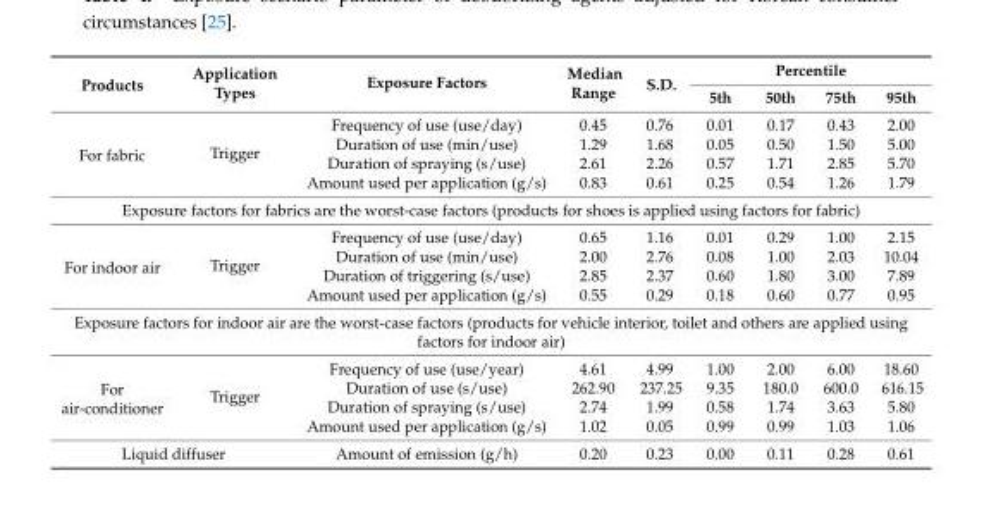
<table><thead><tr><td rowspan="2">Products</td><td rowspan="2">Application Types</td><td rowspan="2">Exposure Factors</td><td rowspan="2">Median Range</td><td rowspan="2">S.D.</td><td colspan="4">Percentile</td></tr><tr><td>5th</td><td>50th</td><td>75th</td><td>95th</td></tr></thead><tbody><tr><td rowspan="4">For fabric</td><td rowspan="4">Trigger</td><td>Frequency of use (use/day)</td><td>0.45</td><td>0.76</td><td>0.01</td><td>0.17</td><td>0.43</td><td>2.00</td></tr><tr><td>Duration of use (min/use)</td><td>1.29</td><td>1.68</td><td>0.05</td><td>0.50</td><td>1.50</td><td>5.00</td></tr><tr><td>Duration of spraying (s/use)</td><td>2.61</td><td>2.26</td><td>0.57</td><td>1.71</td><td>2.85</td><td>5.70</td></tr><tr><td>Amount used per application (g/s)</td><td>0.83</td><td>0.61</td><td>0.25</td><td>0.54</td><td>1.26</td><td>1.79</td></tr><tr><td colspan="9">Exposure factors for fabrics are the worst-case factors (products for shoes is applied using factors for fabric)</td></tr><tr><td rowspan="4">For indoor air</td><td rowspan="4">Trigger</td><td>Frequency of use (use/day)</td><td>0.65</td><td>1.16</td><td>0.01</td><td>0.29</td><td>1.00</td><td>2.15</td></tr><tr><td>Duration of use (min/use)</td><td>2.00</td><td>2.76</td><td>0.08</td><td>1.00</td><td>2.03</td><td>10.04</td></tr><tr><td>Duration of triggering (s/use)</td><td>2.85</td><td>2.37</td><td>0.60</td><td>1.80</td><td>3.00</td><td>7.89</td></tr><tr><td>Amount used per application (g/s)</td><td>0.55</td><td>0.29</td><td>0.18</td><td>0.60</td><td>0.77</td><td>0.95</td></tr><tr><td colspan="9">Exposure factors for indoor air are the worst-case factors (products for vehicle interior, toilet and others are applied using factors for indoor air)</td></tr><tr><td rowspan="4">For air-conditioner</td><td rowspan="4">Trigger</td><td>Frequency of use (use/year)</td><td>4.61</td><td>4.99</td><td>1.00</td><td>2.00</td><td>6.00</td><td>18.60</td></tr><tr><td>Duration of use (s/use)</td><td>262.90</td><td>237.25</td><td>9.35</td><td>180.0</td><td>600.0</td><td>616.15</td></tr><tr><td>Duration of spraying (s/use)</td><td>2.74</td><td>1.99</td><td>0.58</td><td>1.74</td><td>3.63</td><td>5.80</td></tr><tr><td>Amount used per application (g/s)</td><td>1.02</td><td>0.05</td><td>0.99</td><td>0.99</td><td>1.03</td><td>1.06</td></tr><tr><td colspan="2">Liquid diffuser</td><td>Amount of emission (g/h)</td><td>0.20</td><td>0.23</td><td>0.00</td><td>0.11</td><td>0.28</td><td>0.61</td></tr></tbody></table>